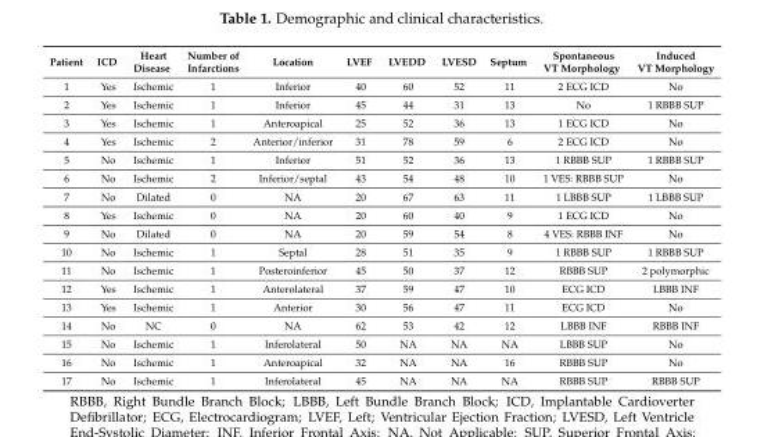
<table><thead><tr><td>Patient</td><td>ICD</td><td>Heart Disease</td><td>Number of Infarctions</td><td>Location</td><td>LVEF</td><td>LVEDD</td><td>LVESD</td><td>Septum</td><td>Spontaneous VT Morphology</td><td>Induced VT Morphology</td></tr></thead><tbody><tr><td>1</td><td>Yes</td><td>Ischemic</td><td>1</td><td>Inferior</td><td>40</td><td>60</td><td>52</td><td>11</td><td>2 ECG ICD</td><td>No</td></tr><tr><td>2</td><td>Yes</td><td>Ischemic</td><td>1</td><td>Inferior</td><td>45</td><td>44</td><td>31</td><td>13</td><td>No</td><td>1 RBBB SUP</td></tr><tr><td>3</td><td>Yes</td><td>Ischemic</td><td>1</td><td>Anteroapical</td><td>25</td><td>52</td><td>36</td><td>13</td><td>1 ECG ICD</td><td>No</td></tr><tr><td>4</td><td>Yes</td><td>Ischemic</td><td>2</td><td>Anterior/inferior</td><td>31</td><td>78</td><td>59</td><td>6</td><td>2 ECG ICD</td><td>No</td></tr><tr><td>5</td><td>No</td><td>Ischemic</td><td>1</td><td>Inferior</td><td>51</td><td>52</td><td>36</td><td>13</td><td>1 RBBB SUP</td><td>1 RBBB SUP</td></tr><tr><td>6</td><td>No</td><td>Ischemic</td><td>2</td><td>Inferior/septal</td><td>43</td><td>54</td><td>48</td><td>10</td><td>1 VES: RBBB SUP</td><td>No</td></tr><tr><td>7</td><td>No</td><td>Dilated</td><td>0</td><td>NA</td><td>20</td><td>67</td><td>63</td><td>11</td><td>1 LBBB SUP</td><td>1 LBBB SUP</td></tr><tr><td>8</td><td>Yes</td><td>Ischemic</td><td>0</td><td>NA</td><td>20</td><td>60</td><td>40</td><td>9</td><td>1 ECG ICD</td><td>No</td></tr><tr><td>9</td><td>No</td><td>Dilated</td><td>0</td><td>NA</td><td>20</td><td>59</td><td>54</td><td>8</td><td>4 VES: RBBB INF</td><td>No</td></tr><tr><td>10</td><td>No</td><td>Ischemic</td><td>1</td><td>Septal</td><td>28</td><td>51</td><td>35</td><td>9</td><td>1 RBBB SUP</td><td>1 RBBB SUP</td></tr><tr><td>11</td><td>No</td><td>Ischemic</td><td>1</td><td>Posteroinferior</td><td>45</td><td>50</td><td>37</td><td>12</td><td>RBBB SUP</td><td>2 polymorphic</td></tr><tr><td>12</td><td>Yes</td><td>Ischemic</td><td>1</td><td>Anterolateral</td><td>37</td><td>59</td><td>47</td><td>10</td><td>ECG ICD</td><td>LBBB INF</td></tr><tr><td>13</td><td>Yes</td><td>Ischemic</td><td>1</td><td>Anterior</td><td>30</td><td>56</td><td>47</td><td>11</td><td>ECG ICD</td><td>No</td></tr><tr><td>14</td><td>No</td><td>NC</td><td>0</td><td>NA</td><td>62</td><td>53</td><td>42</td><td>12</td><td>LBBB INF</td><td>RBBB INF</td></tr><tr><td>15</td><td>No</td><td>Ischemic</td><td>1</td><td>Inferolateral</td><td>50</td><td>NA</td><td>NA</td><td>NA</td><td>LBBB SUP</td><td>No</td></tr><tr><td>16</td><td>No</td><td>Ischemic</td><td>1</td><td>Anteroapical</td><td>32</td><td>NA</td><td>NA</td><td>16</td><td>RBBB SUP</td><td>No</td></tr><tr><td>17</td><td>No</td><td>Ischemic</td><td>1</td><td>Inferolateral</td><td>45</td><td>NA</td><td>NA</td><td>NA</td><td>RBBB SUP</td><td>RBBB SUP</td></tr></tbody></table>